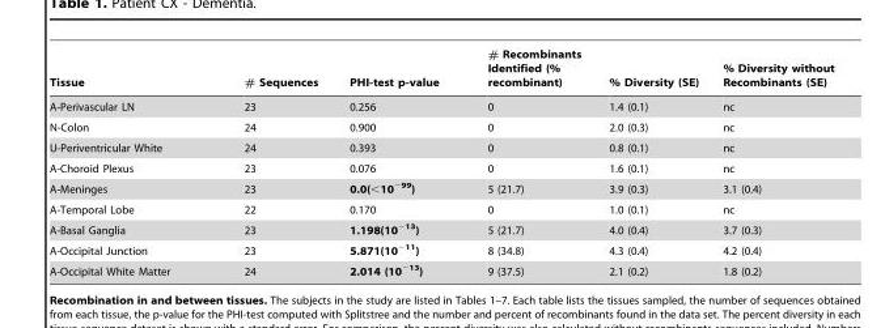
<table><thead><tr><td>Tissue</td><td># Sequences</td><td>PHI-test p-value</td><td># Recombinants Identified (% recombinant)</td><td>% Diversity (SE)</td><td>% Diversity without Recombinants (SE)</td></tr></thead><tbody><tr><td>A-Perivascular LN</td><td>23</td><td>0.256</td><td>0</td><td>1.4 (0.1)</td><td>nc</td></tr><tr><td>N-Colon</td><td>24</td><td>0.900</td><td>0</td><td>2.0 (0.3)</td><td>nc</td></tr><tr><td>U-Periventricular White</td><td>24</td><td>0.393</td><td>0</td><td>0.8 (0.1)</td><td>nc</td></tr><tr><td>A-Choroid Plexus</td><td>23</td><td>0.076</td><td>0</td><td>1.6 (0.1)</td><td>nc</td></tr><tr><td>A-Meninges</td><td>23</td><td>0.0(&lt;10<sup>−99</sup>)</td><td>5 (21.7)</td><td>3.9 (0.3)</td><td>3.1 (0.4)</td></tr><tr><td>A-Temporal Lobe</td><td>22</td><td>0.170</td><td>0</td><td>1.0 (0.1)</td><td>nc</td></tr><tr><td>A-Basal Ganglia</td><td>23</td><td>1.198(10<sup>−13</sup>)</td><td>5 (21.7)</td><td>4.0 (0.4)</td><td>3.7 (0.3)</td></tr><tr><td>A-Occipital Junction</td><td>23</td><td>5.871(10<sup>−11</sup>)</td><td>8 (34.8)</td><td>4.3 (0.4)</td><td>4.2 (0.4)</td></tr><tr><td>A-Occipital White Matter</td><td>24</td><td>2.014 (10<sup>−13</sup>)</td><td>9 (37.5)</td><td>2.1 (0.2)</td><td>1.8 (0.2)</td></tr></tbody></table>